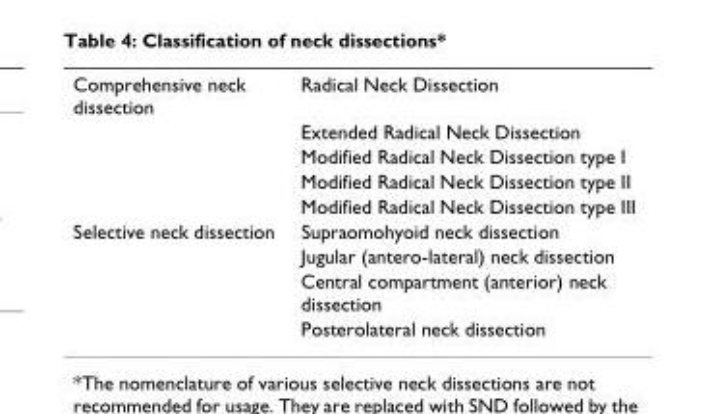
<table><tbody><tr><td rowspan="5">Comprehensive neck dissection</td><td>Radical Neck Dissection</td></tr><tr><td>Extended Radical Neck Dissection</td></tr><tr><td>Modified Radical Neck Dissection type I</td></tr><tr><td>Modified Radical Neck Dissection type II</td></tr><tr><td>Modified Radical Neck Dissection type III</td></tr><tr><td rowspan="4">Selective neck dissection</td><td>Supraomohyoid neck dissection</td></tr><tr><td>Jugular (antero-lateral) neck dissection</td></tr><tr><td>Central compartment (anterior) neck dissection</td></tr><tr><td>Posterolateral neck dissection</td></tr></tbody></table>